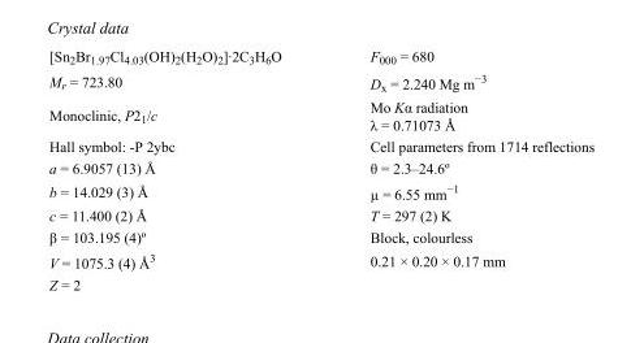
<table><tbody><tr><td>[Sn<sub>2</sub>Br<sub>1.97</sub>Cl<sub>4.03</sub>(OH)<sub>2</sub>(H<sub>2</sub>O)<sub>2</sub>]·2C<sub>3</sub>H<sub>6</sub>O</td><td>F000 = 680</td></tr><tr><td>M<sub>r</sub> = 723.80</td><td>D<sub>x</sub> = 2.240 Mg m<sup>−3</sup></td></tr><tr><td>Monoclinic, P2<sub>1</sub>/c</td><td>Mo Kα radiation λ = 0.71073 Å</td></tr><tr><td>Hall symbol: -P 2ybc</td><td>Cell parameters from 1714 reflections</td></tr><tr><td>a = 6.9057 (13) Å</td><td>θ = 2.3–24.6º</td></tr><tr><td>b = 14.029 (3) Å</td><td>µ = 6.55 mm<sup>−1</sup></td></tr><tr><td>c = 11.400 (2) Å</td><td>T = 297 (2) K</td></tr><tr><td>β = 103.195 (4)º</td><td>Block, colourless</td></tr><tr><td>V = 1075.3 (4) Å<sup>3</sup></td><td>0.21 × 0.20 × 0.17 mm</td></tr><tr><td>Z = 2</td><td></td></tr></tbody></table>